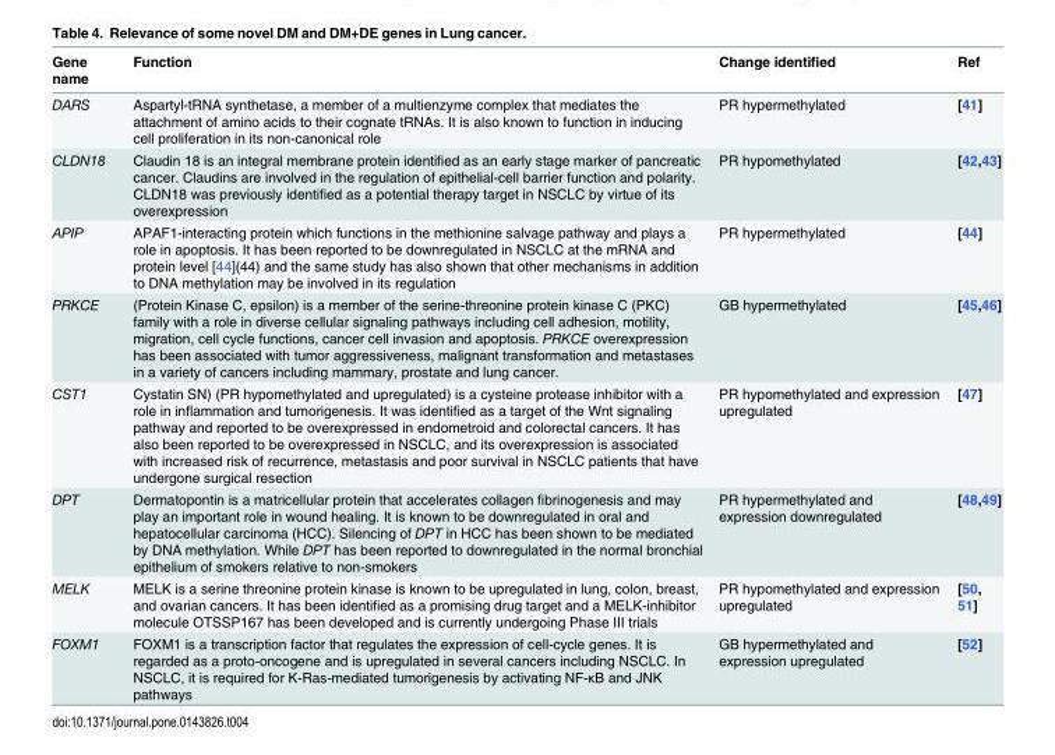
<table><thead><tr><td>Gene name</td><td>Function</td><td>Change identified</td><td>Ref</td></tr></thead><tbody><tr><td>DARS</td><td>Aspartyl-tRNA synthetase, a member of a multienzyme complex that mediates the attachment of amino acids to their cognate tRNAs. It is also known to function in inducing cell proliferation in its non-canonical role</td><td>PR hypermethylated</td><td>[41]</td></tr><tr><td>CLDN18</td><td>Claudin 18 is an integral membrane protein identified as an early stage marker of pancreatic cancer. Claudins are involved in the regulation of epithelial-cell barrier function and polarity. CLDN18 was previously identified as a potential therapy target in NSCLC by virtue of its overexpression</td><td>PR hypomethylated</td><td>[42,43]</td></tr><tr><td>APIP</td><td>APAF1-interacting protein which functions in the methionine salvage pathway and plays a role in apoptosis. It has been reported to be downregulated in NSCLC at the mRNA and protein level [44](44) and the same study has also shown that other mechanisms in addition to DNA methylation may be involved in its regulation</td><td>PR hypermethylated</td><td>[44]</td></tr><tr><td>PRKCE</td><td>(Protein Kinase C, epsilon) is a member of the serine-threonine protein kinase C (PKC) family with a role in diverse cellular signaling pathways including cell adhesion, motility, migration, cell cycle functions, cancer cell invasion and apoptosis. PRKCE overexpression has been associated with tumor aggressiveness, malignant transformation and metastases in a variety of cancers including mammary, prostate and lung cancer.</td><td>GB hypermethylated</td><td>[45,46]</td></tr><tr><td>CST1</td><td>Cystatin SN) (PR hypomethylated and upregulated) is a cysteine protease inhibitor with a role in inflammation and tumorigenesis. It was identified as a target of the Wnt signaling pathway and reported to be overexpressed in endometroid and colorectal cancers. It has also been reported to be overexpressed in NSCLC, and its overexpression is associated with increased risk of recurrence, metastasis and poor survival in NSCLC patients that have undergone surgical resection</td><td>PR hypomethylated and expression upregulated</td><td>[47]</td></tr><tr><td>DPT</td><td>Dermatopontin is a matricellular protein that accelerates collagen fibrinogenesis and may play an important role in wound healing. It is known to be downregulated in oral and hepatocellular carcinoma (HCC). Silencing of DPT in HCC has been shown to be mediated by DNA methylation. While DPT has been reported to downregulated in the normal bronchial epithelium of smokers relative to non-smokers</td><td>PR hypermethylated and expression downregulated</td><td>[48,49]</td></tr><tr><td>MELK</td><td>MELK is a serine threonine protein kinase is known to be upregulated in lung, colon, breast, and ovarian cancers. It has been identified as a promising drug target and a MELK-inhibitor molecule OTSSP167 has been developed and is currently undergoing Phase III trials</td><td>PR hypomethylated and expression upregulated</td><td>[50, 51]</td></tr><tr><td>FOXM1</td><td>FOXM1 is a transcription factor that regulates the expression of cell-cycle genes. It is regarded as a proto-oncogene and is upregulated in several cancers including NSCLC. In NSCLC, it is required for K-Ras-mediated tumorigenesis by activating NF-κB and JNK pathways</td><td>GB hypermethylated and expression upregulated</td><td>[52]</td></tr></tbody></table>